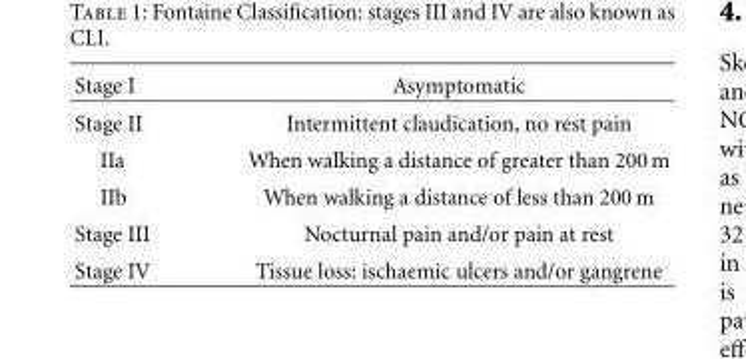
<table><thead><tr><td>Stage I</td><td>Asymptomatic</td></tr></thead><tbody><tr><td>Stage II</td><td>Intermittent claudication, no rest pain</td></tr><tr><td>IIa</td><td>When walking a distance of greater than 200 m</td></tr><tr><td>IIb</td><td>When walking a distance of less than 200 m</td></tr><tr><td>Stage III</td><td>Nocturnal pain and/or pain at rest</td></tr><tr><td>Stage IV</td><td>Tissue loss: ischaemic ulcers and/or gangrene</td></tr></tbody></table>